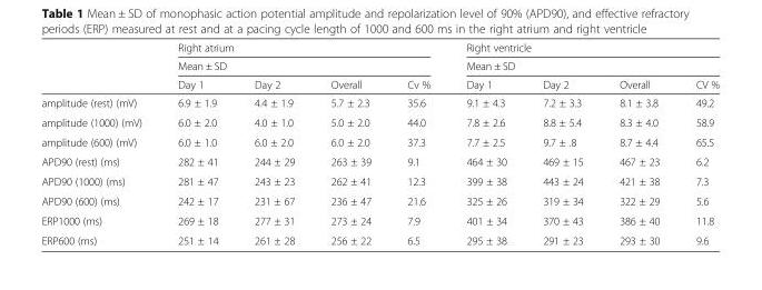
<table><thead><tr><td rowspan="3"></td><td rowspan="2" colspan="4">Right atrium Mean ± SD</td><td rowspan="2" colspan="4">Right ventricle Mean ± SD</td></tr><tr></tr><tr><td>Day 1</td><td>Day 2</td><td>Overall</td><td>Cv %</td><td>Day 1</td><td>Day 2</td><td>Overall</td><td>CV %</td></tr></thead><tbody><tr><td>amplitude (rest) (mV)</td><td>6.9 ± 1.9</td><td>4.4 ± 1.9</td><td>5.7 ± 2.3</td><td>35.6</td><td>9.1 ± 4.3</td><td>7.2 ± 3.3</td><td>8.1 ± 3.8</td><td>49.2</td></tr><tr><td>amplitude (1000) (mV)</td><td>6.0 ± 2.0</td><td>4.0 ± 1.0</td><td>5.0 ± 2.0</td><td>44.0</td><td>7.8 ± 2.6</td><td>8.8 ± 5.4</td><td>8.3 ± 4.0</td><td>58.9</td></tr><tr><td>amplitude (600) (mV)</td><td>6.0 ± 1.0</td><td>6.0 ± 2.0</td><td>6.0 ± 2.0</td><td>37.3</td><td>7.7 ± 2.5</td><td>9.7 ± .8</td><td>8.7 ± 4.4</td><td>65.5</td></tr><tr><td>APD90 (rest) (ms)</td><td>282 ± 41</td><td>244 ± 29</td><td>263 ± 39</td><td>9.1</td><td>464 ± 30</td><td>469 ± 15</td><td>467 ± 23</td><td>6.2</td></tr><tr><td>APD90 (1000) (ms)</td><td>281 ± 47</td><td>243 ± 23</td><td>262 ± 41</td><td>12.3</td><td>399 ± 38</td><td>443 ± 24</td><td>421 ± 38</td><td>7.3</td></tr><tr><td>APD90 (600) (ms)</td><td>242 ± 17</td><td>231 ± 67</td><td>236 ± 47</td><td>21.6</td><td>325 ± 26</td><td>319 ± 34</td><td>322 ± 29</td><td>5.6</td></tr><tr><td>ERP1000 (ms)</td><td>269 ± 18</td><td>277 ± 31</td><td>273 ± 24</td><td>7.9</td><td>401 ± 34</td><td>370 ± 43</td><td>386 ± 40</td><td>11.8</td></tr><tr><td>ERP600 (ms)</td><td>251 ± 14</td><td>261 ± 28</td><td>256 ± 22</td><td>6.5</td><td>295 ± 38</td><td>291 ± 23</td><td>293 ± 30</td><td>9.6</td></tr></tbody></table>